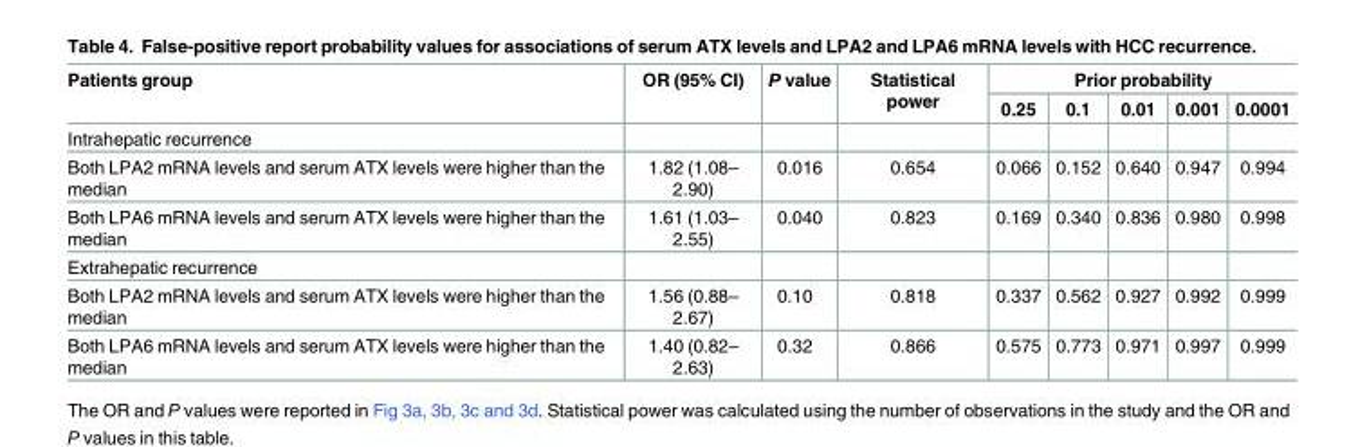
<table><thead><tr><td rowspan="2">Patients group</td><td rowspan="2">OR (95% CI)</td><td rowspan="2">P value</td><td rowspan="2">Statistical power</td><td colspan="5">Prior probability</td></tr><tr><td>0.25</td><td>0.1</td><td>0.01</td><td>0.001</td><td>0.0001</td></tr></thead><tbody><tr><td colspan="9">Intrahepatic recurrence</td></tr><tr><td>Both LPA2 mRNA levels and serum ATX levels were higher than the median</td><td>1.82 (1.08– 2.90)</td><td>0.016</td><td>0.654</td><td>0.066</td><td>0.152</td><td>0.640</td><td>0.947</td><td>0.994</td></tr><tr><td>Both LPA6 mRNA levels and serum ATX levels were higher than the median</td><td>1.61 (1.03– 2.55)</td><td>0.040</td><td>0.823</td><td>0.169</td><td>0.340</td><td>0.836</td><td>0.980</td><td>0.998</td></tr><tr><td colspan="9">Extrahepatic recurrence</td></tr><tr><td>Both LPA2 mRNA levels and serum ATX levels were higher than the median</td><td>1.56 (0.88– 2.67)</td><td>0.10</td><td>0.818</td><td>0.337</td><td>0.562</td><td>0.927</td><td>0.992</td><td>0.999</td></tr><tr><td>Both LPA6 mRNA levels and serum ATX levels were higher than the median</td><td>1.40 (0.82– 2.63)</td><td>0.32</td><td>0.866</td><td>0.575</td><td>0.773</td><td>0.971</td><td>0.997</td><td>0.999</td></tr></tbody></table>